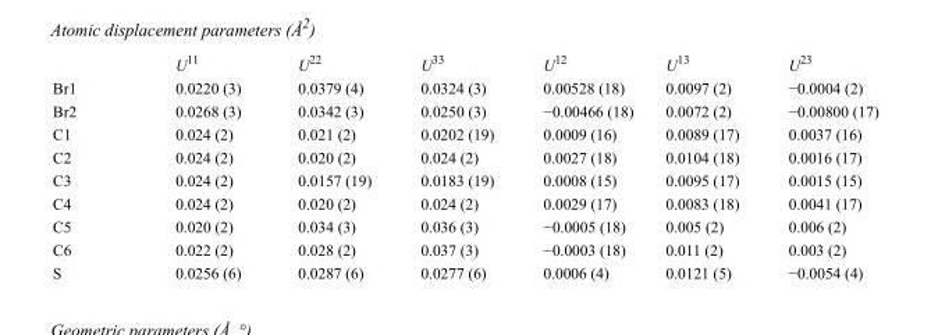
<table><thead><tr><td></td><td>U<sup>11</sup></td><td>U<sup>22</sup></td><td>U<sup>33</sup></td><td>U<sup>12</sup></td><td>U<sup>13</sup></td><td>U<sup>23</sup></td></tr></thead><tbody><tr><td>Br1</td><td>0.0220 (3)</td><td>0.0379 (4)</td><td>0.0324 (3)</td><td>0.00528 (18)</td><td>0.0097 (2)</td><td>−0.0004 (2)</td></tr><tr><td>Br2</td><td>0.0268 (3)</td><td>0.0342 (3)</td><td>0.0250 (3)</td><td>−0.00466 (18)</td><td>0.0072 (2)</td><td>−0.00800 (17)</td></tr><tr><td>C1</td><td>0.024 (2)</td><td>0.021 (2)</td><td>0.0202 (19)</td><td>0.0009 (16)</td><td>0.0089 (17)</td><td>0.0037 (16)</td></tr><tr><td>C2</td><td>0.024 (2)</td><td>0.020 (2)</td><td>0.024 (2)</td><td>0.0027 (18)</td><td>0.0104 (18)</td><td>0.0016 (17)</td></tr><tr><td>C3</td><td>0.024 (2)</td><td>0.0157 (19)</td><td>0.0183 (19)</td><td>0.0008 (15)</td><td>0.0095 (17)</td><td>0.0015 (15)</td></tr><tr><td>C4</td><td>0.024 (2)</td><td>0.020 (2)</td><td>0.024 (2)</td><td>0.0029 (17)</td><td>0.0083 (18)</td><td>0.0041 (17)</td></tr><tr><td>C5</td><td>0.020 (2)</td><td>0.034 (3)</td><td>0.036 (3)</td><td>−0.0005 (18)</td><td>0.005 (2)</td><td>0.006 (2)</td></tr><tr><td>C6</td><td>0.022 (2)</td><td>0.028 (2)</td><td>0.037 (3)</td><td>−0.0003 (18)</td><td>0.011 (2)</td><td>0.003 (2)</td></tr><tr><td>S</td><td>0.0256 (6)</td><td>0.0287 (6)</td><td>0.0277 (6)</td><td>0.0006 (4)</td><td>0.0121 (5)</td><td>−0.0054 (4)</td></tr></tbody></table>